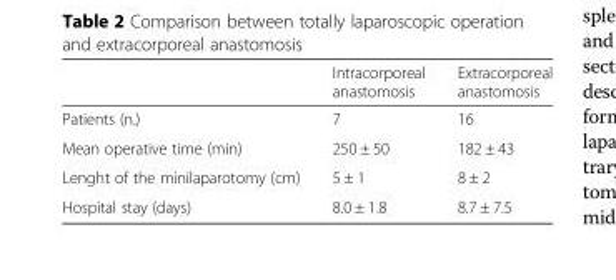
<table><thead><tr><td></td><td>Intracorporeal anastomosis</td><td>Extracorporeal anastomosis</td></tr></thead><tbody><tr><td>Patients (n.)</td><td>7</td><td>16</td></tr><tr><td>Mean operative time (min)</td><td>250 ± 50</td><td>182 ± 43</td></tr><tr><td>Lenght of the minilaparotomy (cm)</td><td>5 ± 1</td><td>8 ± 2</td></tr><tr><td>Hospital stay (days)</td><td>8.0 ± 1.8</td><td>8.7 ± 7.5</td></tr></tbody></table>